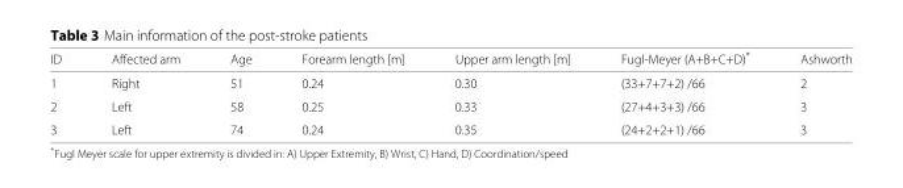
<table><thead><tr><td>ID</td><td>Affected arm</td><td>Age</td><td>Forearm length [m]</td><td>Upper arm length [m]</td><td>Fugl-Meyer (A+B+C+D)*</td><td>Ashworth</td></tr></thead><tbody><tr><td>1</td><td>Right</td><td>51</td><td>0.24</td><td>0.30</td><td>(33+7+7+2) /66</td><td>2</td></tr><tr><td>2</td><td>Left</td><td>58</td><td>0.25</td><td>0.33</td><td>(27+4+3+3) /66</td><td>3</td></tr><tr><td>3</td><td>Left</td><td>74</td><td>0.24</td><td>0.35</td><td>(24+2+2+1) /66</td><td>3</td></tr></tbody></table>